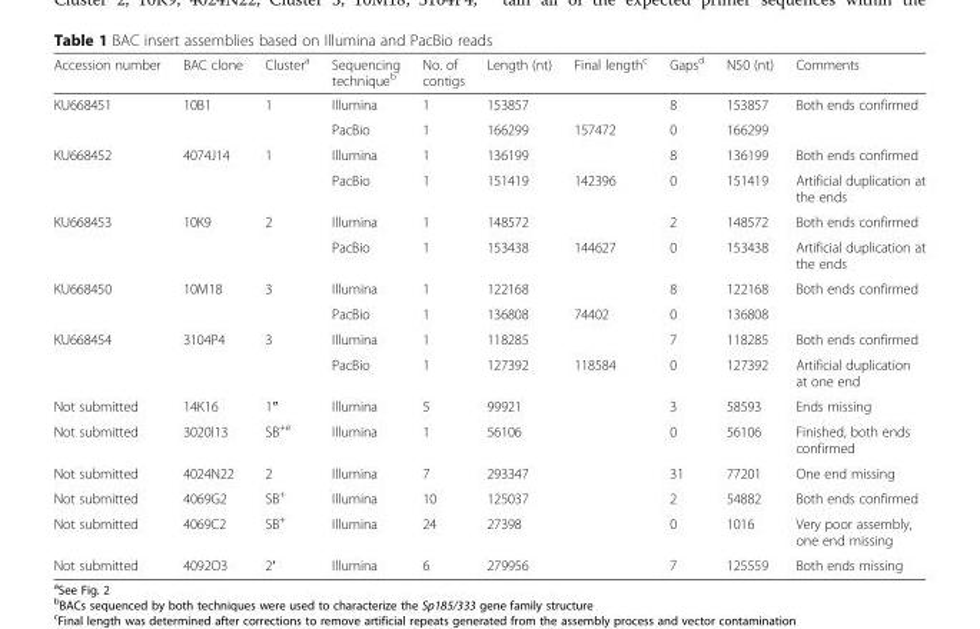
<table><thead><tr><td>Accession number</td><td>BAC clone</td><td>Cluster<sup>a</sup></td><td>Sequencing technique<sup>b</sup></td><td>No. of contigs</td><td>Length (nt)</td><td>Final length<sup>c</sup></td><td>Gaps<sup>d</sup></td><td>N50 (nt)</td><td>Comments</td></tr></thead><tbody><tr><td rowspan="2">KU668451</td><td rowspan="2">10B1</td><td rowspan="2">1</td><td>Illumina</td><td>1</td><td>153857</td><td></td><td>8</td><td>153857</td><td>Both ends confirmed</td></tr><tr><td>PacBio</td><td>1</td><td>166299</td><td>157472</td><td>0</td><td>166299</td><td></td></tr><tr><td rowspan="2">KU668452</td><td rowspan="2">4074J14</td><td rowspan="2">1</td><td>Illumina</td><td>1</td><td>136199</td><td></td><td>8</td><td>136199</td><td>Both ends confirmed</td></tr><tr><td>PacBio</td><td>1</td><td>151419</td><td>142396</td><td>0</td><td>151419</td><td>Artificial duplication at the ends</td></tr><tr><td rowspan="2">KU668453</td><td rowspan="2">10K9</td><td rowspan="2">2</td><td>Illumina</td><td>1</td><td>148572</td><td></td><td>2</td><td>148572</td><td>Both ends confirmed</td></tr><tr><td>PacBio</td><td>1</td><td>153438</td><td>144627</td><td>0</td><td>153438</td><td>Artificial duplication at the ends</td></tr><tr><td rowspan="2">KU668450</td><td rowspan="2">10M18</td><td rowspan="2">3</td><td>Illumina</td><td>1</td><td>122168</td><td></td><td>8</td><td>122168</td><td>Both ends confirmed</td></tr><tr><td>PacBio</td><td>1</td><td>136808</td><td>74402</td><td>0</td><td>136808</td><td></td></tr><tr><td rowspan="2">KU668454</td><td rowspan="2">3104P4</td><td rowspan="2">3</td><td>Illumina</td><td>1</td><td>118285</td><td></td><td>7</td><td>118285</td><td>Both ends confirmed</td></tr><tr><td>PacBio</td><td>1</td><td>127392</td><td>118584</td><td>0</td><td>127392</td><td>Artificial duplication at one end</td></tr><tr><td>Not submitted</td><td>14K16</td><td>1″</td><td>Illumina</td><td>5</td><td>99921</td><td></td><td>3</td><td>58593</td><td>Ends missing</td></tr><tr><td>Not submitted</td><td>3020I13</td><td>SB<sup>+e</sup></td><td>Illumina</td><td>1</td><td>56106</td><td></td><td>0</td><td>56106</td><td>Finished, both ends confirmed</td></tr><tr><td>Not submitted</td><td>4024N22</td><td>2</td><td>Illumina</td><td>7</td><td>293347</td><td></td><td>31</td><td>77201</td><td>One end missing</td></tr><tr><td>Not submitted</td><td>4069G2</td><td>SB<sup>+</sup></td><td>Illumina</td><td>10</td><td>125037</td><td></td><td>2</td><td>54882</td><td>Both ends confirmed</td></tr><tr><td>Not submitted</td><td>4069C2</td><td>SB<sup>+</sup></td><td>Illumina</td><td>24</td><td>27398</td><td></td><td>0</td><td>1016</td><td>Very poor assembly, one end missing</td></tr><tr><td>Not submitted</td><td>4092O3</td><td>2′</td><td>Illumina</td><td>6</td><td>279956</td><td></td><td>7</td><td>125559</td><td>Both ends missing</td></tr></tbody></table>